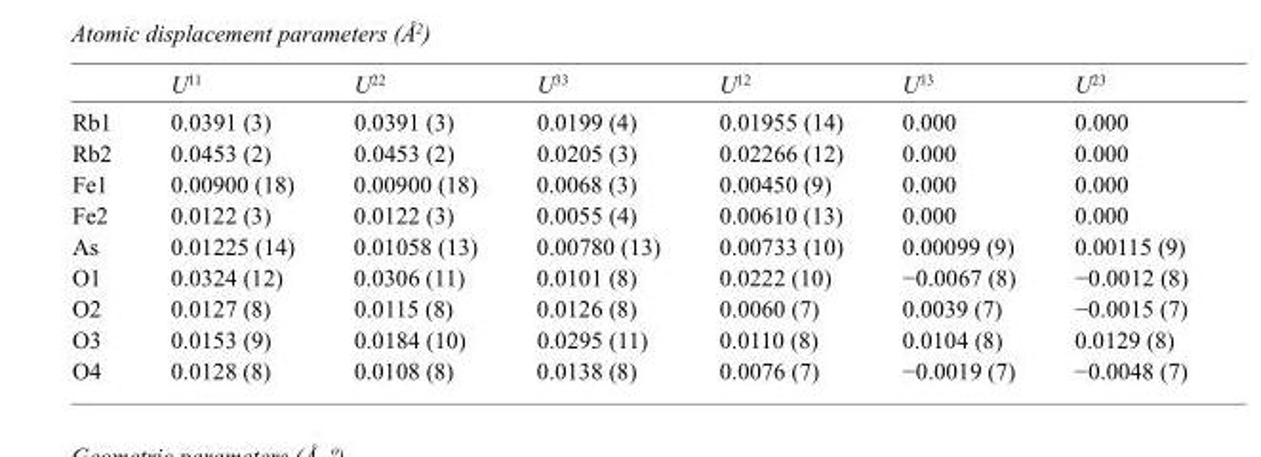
<table><thead><tr><td></td><td>U<sup>11</sup></td><td>U<sup>22</sup></td><td>U<sup>33</sup></td><td>U<sup>12</sup></td><td>U<sup>13</sup></td><td>U<sup>23</sup></td></tr></thead><tbody><tr><td>Rb1</td><td>0.0391 (3)</td><td>0.0391 (3)</td><td>0.0199 (4)</td><td>0.01955 (14)</td><td>0.000</td><td>0.000</td></tr><tr><td>Rb2</td><td>0.0453 (2)</td><td>0.0453 (2)</td><td>0.0205 (3)</td><td>0.02266 (12)</td><td>0.000</td><td>0.000</td></tr><tr><td>Fe1</td><td>0.00900 (18)</td><td>0.00900 (18)</td><td>0.0068 (3)</td><td>0.00450 (9)</td><td>0.000</td><td>0.000</td></tr><tr><td>Fe2</td><td>0.0122 (3)</td><td>0.0122 (3)</td><td>0.0055 (4)</td><td>0.00610 (13)</td><td>0.000</td><td>0.000</td></tr><tr><td>As</td><td>0.01225 (14)</td><td>0.01058 (13)</td><td>0.00780 (13)</td><td>0.00733 (10)</td><td>0.00099 (9)</td><td>0.00115 (9)</td></tr><tr><td>O1</td><td>0.0324 (12)</td><td>0.0306 (11)</td><td>0.0101 (8)</td><td>0.0222 (10)</td><td>−0.0067 (8)</td><td>−0.0012 (8)</td></tr><tr><td>O2</td><td>0.0127 (8)</td><td>0.0115 (8)</td><td>0.0126 (8)</td><td>0.0060 (7)</td><td>0.0039 (7)</td><td>−0.0015 (7)</td></tr><tr><td>O3</td><td>0.0153 (9)</td><td>0.0184 (10)</td><td>0.0295 (11)</td><td>0.0110 (8)</td><td>0.0104 (8)</td><td>0.0129 (8)</td></tr><tr><td>O4</td><td>0.0128 (8)</td><td>0.0108 (8)</td><td>0.0138 (8)</td><td>0.0076 (7)</td><td>−0.0019 (7)</td><td>−0.0048 (7)</td></tr></tbody></table>